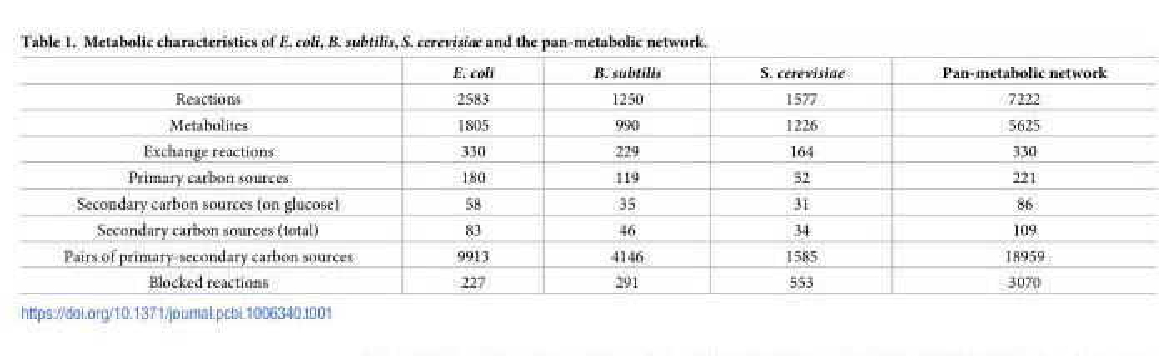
<table><thead><tr><td></td><td>E. coli</td><td>B. subtilis</td><td>S. cerevisiae</td><td>Pan-metabolic network</td></tr></thead><tbody><tr><td>Reactions</td><td>2583</td><td>1250</td><td>1577</td><td>7222</td></tr><tr><td>Metabolites</td><td>1805</td><td>990</td><td>1226</td><td>5625</td></tr><tr><td>Exchange reactions</td><td>330</td><td>229</td><td>164</td><td>330</td></tr><tr><td>Primary carbon sources</td><td>180</td><td>119</td><td>52</td><td>221</td></tr><tr><td>Secondary carbon sources (on glucose)</td><td>58</td><td>35</td><td>31</td><td>86</td></tr><tr><td>Secondary carbon sources (total)</td><td>83</td><td>46</td><td>34</td><td>109</td></tr><tr><td>Pairs of primary-secondary carbon sources</td><td>9913</td><td>4146</td><td>1585</td><td>18959</td></tr><tr><td>Blocked reactions</td><td>227</td><td>291</td><td>553</td><td>3070</td></tr></tbody></table>